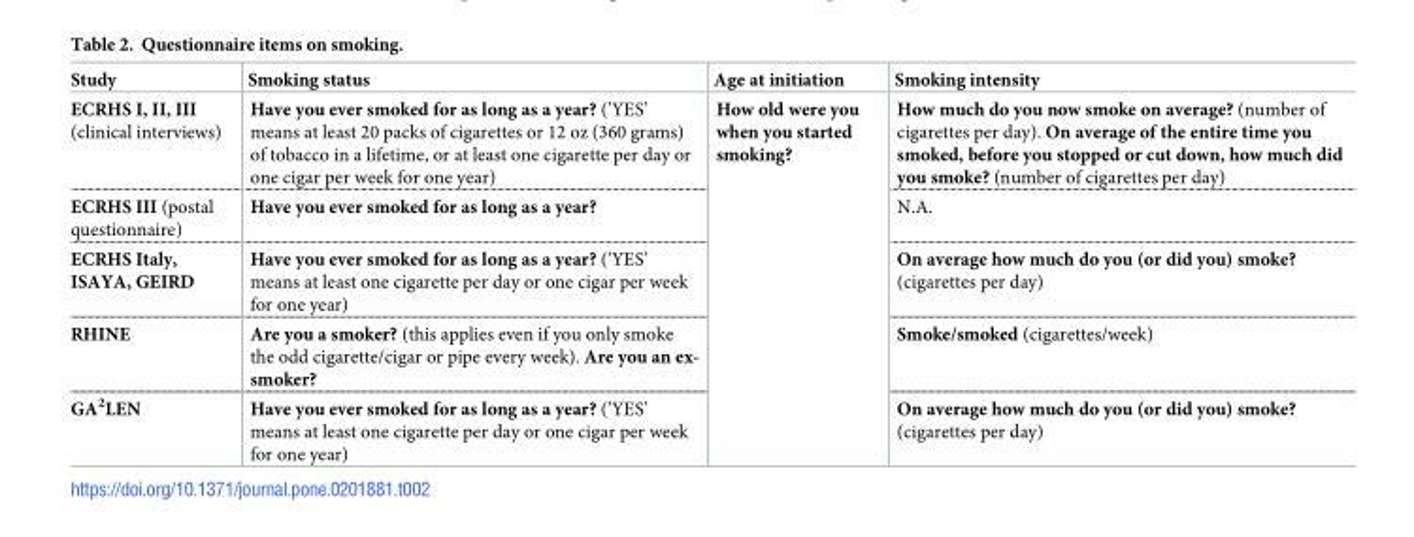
<table><thead><tr><td>Study</td><td>Smoking status</td><td>Age at initiation</td><td>Smoking intensity</td></tr></thead><tbody><tr><td>ECRHS I, II, III (clinical interviews)</td><td>Have you ever smoked for as long as a year? (’YES’ means at least 20 packs of cigarettes or 12 oz (360 grams) of tobacco in a lifetime, or at least one cigarette per day or one cigar per week for one year)</td><td rowspan="5">How old were you when you started smoking?</td><td>How much do you now smoke on average? (number of cigarettes per day). On average of the entire time you smoked, before you stopped or cut down, how much did you smoke? (number of cigarettes per day)</td></tr><tr><td>ECRHS III (postal questionnaire)</td><td>Have you ever smoked for as long as a year?</td><td>N.A.</td></tr><tr><td>ECRHS Italy, ISAYA, GEIRD</td><td>Have you ever smoked for as long as a year? (’YES’ means at least one cigarette per day or one cigar per week for one year)</td><td>On average how much do you (or did you) smoke? (cigarettes per day)</td></tr><tr><td>RHINE</td><td>Are you a smoker? (this applies even if you only smoke the odd cigarette/cigar or pipe every week). Are you an ex- smoker?</td><td>Smoke/smoked (cigarettes/week)</td></tr><tr><td>GA<sup>2</sup>LEN</td><td>Have you ever smoked for as long as a year? (’YES’ means at least one cigarette per day or one cigar per week for one year)</td><td>On average how much do you (or did you) smoke? (cigarettes per day)</td></tr></tbody></table>